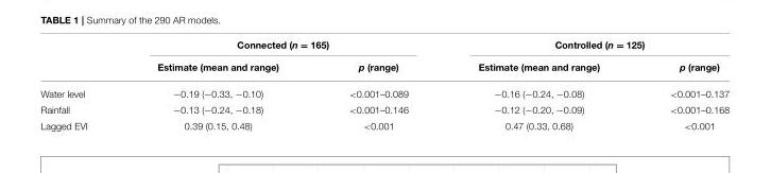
<table><thead><tr><td rowspan="2"></td><td colspan="2">Connected (n = 165)</td><td colspan="2">Controlled (n = 125)</td></tr><tr><td>Estimate (mean and range)</td><td>p (range)</td><td>Estimate (mean and range)</td><td>p (range)</td></tr></thead><tbody><tr><td>Water level</td><td>−0.19 (−0.33, −0.10)</td><td>&lt;0.001–0.089</td><td>−0.16 (−0.24, −0.08)</td><td>&lt;0.001–0.137</td></tr><tr><td>Rainfall</td><td>−0.13 (−0.24, −0.18)</td><td>&lt;0.001–0.146</td><td>−0.12 (−0.20, −0.09)</td><td>&lt;0.001–0.168</td></tr><tr><td>Lagged EVI</td><td>0.39 (0.15, 0.48)</td><td>&lt;0.001</td><td>0.47 (0.33, 0.68)</td><td>&lt;0.001</td></tr></tbody></table>